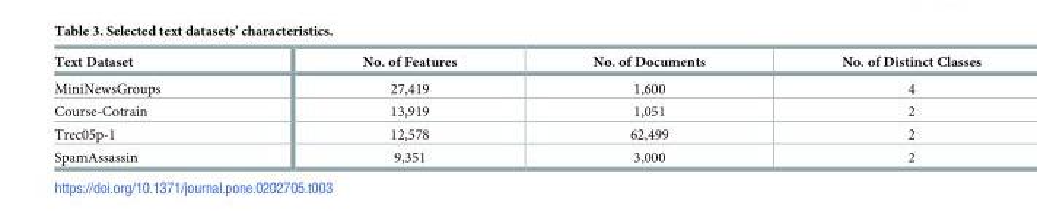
<table><thead><tr><td>Text Dataset</td><td>No. of Features</td><td>No. of Documents</td><td>No. of Distinct Classes</td></tr></thead><tbody><tr><td>MiniNewsGroups</td><td>27,419</td><td>1,600</td><td>4</td></tr><tr><td>Course-Cotrain</td><td>13,919</td><td>1,051</td><td>2</td></tr><tr><td>Trec05p-1</td><td>12,578</td><td>62,499</td><td>2</td></tr><tr><td>SpamAssassin</td><td>9,351</td><td>3,000</td><td>2</td></tr></tbody></table>